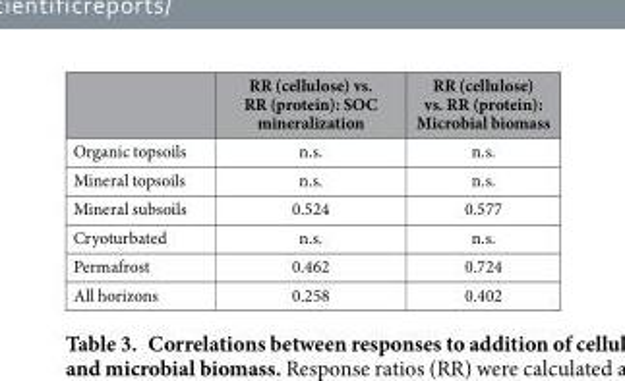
<table><thead><tr><td></td><td>RR (cellulose) vs. RR (protein): SOC mineralization</td><td>RR (cellulose) vs. RR (protein): Microbial biomass</td></tr></thead><tbody><tr><td>Organic topsoils</td><td>n.s.</td><td>n.s.</td></tr><tr><td>Mineral topsoils</td><td>n.s.</td><td>n.s.</td></tr><tr><td>Mineral subsoils</td><td>0.524</td><td>0.577</td></tr><tr><td>Cryoturbated</td><td>n.s.</td><td>n.s.</td></tr><tr><td>Permafrost</td><td>0.462</td><td>0.724</td></tr><tr><td>All horizons</td><td>0.258</td><td>0.402</td></tr></tbody></table>